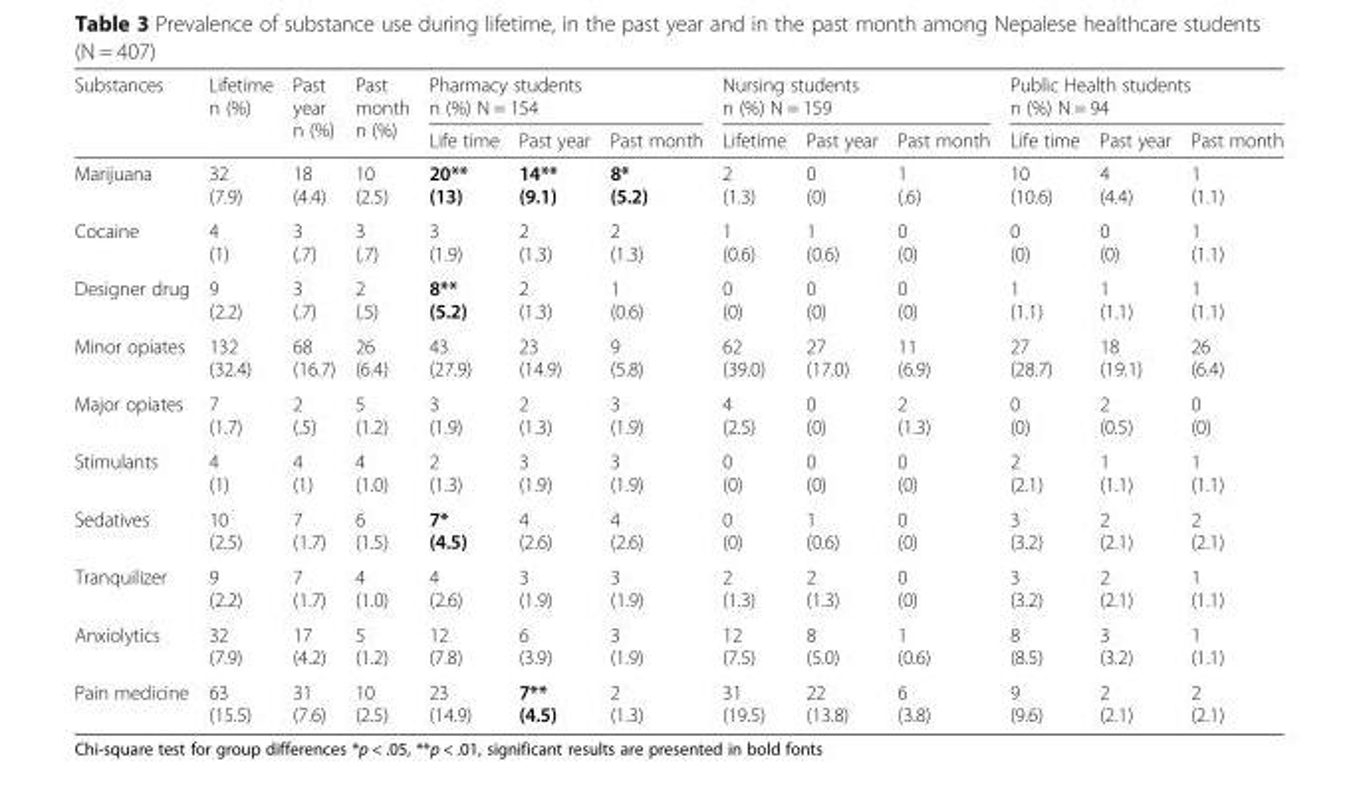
<table><thead><tr><td rowspan="2">Substances</td><td rowspan="2">Lifetime n (%)</td><td rowspan="2">Past year n (%)</td><td rowspan="2">Past month n (%)</td><td colspan="3">Pharmacy students n (%) N = 154</td><td colspan="3">Nursing students n (%) N = 159</td><td colspan="3">Public Health students n (%) N = 94</td></tr><tr><td>Life time</td><td>Past year</td><td>Past month</td><td>Lifetime</td><td>Past year</td><td>Past month</td><td>Life time</td><td>Past year</td><td>Past month</td></tr></thead><tbody><tr><td>Marijuana</td><td>32 (7.9)</td><td>18 (4.4)</td><td>10 (2.5)</td><td>20** (13)</td><td>14** (9.1)</td><td>8* (5.2)</td><td>2 (1.3)</td><td>0 (0)</td><td>1 (.6)</td><td>10 (10.6)</td><td>4 (4.4)</td><td>1 (1.1)</td></tr><tr><td>Cocaine</td><td>4 (1)</td><td>3 (.7)</td><td>3 (.7)</td><td>3 (1.9)</td><td>2 (1.3)</td><td>2 (1.3)</td><td>1 (0.6)</td><td>1 (0.6)</td><td>0 (0)</td><td>0 (0)</td><td>0 (0)</td><td>1 (1.1)</td></tr><tr><td>Designer drug</td><td>9 (2.2)</td><td>3 (.7)</td><td>2 (.5)</td><td>8** (5.2)</td><td>2 (1.3)</td><td>1 (0.6)</td><td>0 (0)</td><td>0 (0)</td><td>0 (0)</td><td>1 (1.1)</td><td>1 (1.1)</td><td>1 (1.1)</td></tr><tr><td>Minor opiates</td><td>132 (32.4)</td><td>68 (16.7)</td><td>26 (6.4)</td><td>43 (27.9)</td><td>23 (14.9)</td><td>9 (5.8)</td><td>62 (39.0)</td><td>27 (17.0)</td><td>11 (6.9)</td><td>27 (28.7)</td><td>18 (19.1)</td><td>26 (6.4)</td></tr><tr><td>Major opiates</td><td>7 (1.7)</td><td>2 (.5)</td><td>5 (1.2)</td><td>3 (1.9)</td><td>2 (1.3)</td><td>3 (1.9)</td><td>4 (2.5)</td><td>0 (0)</td><td>2 (1.3)</td><td>0 (0)</td><td>2 (0.5)</td><td>0 (0)</td></tr><tr><td>Stimulants</td><td>4 (1)</td><td>4 (1)</td><td>4 (1.0)</td><td>2 (1.3)</td><td>3 (1.9)</td><td>3 (1.9)</td><td>0 (0)</td><td>0 (0)</td><td>0 (0)</td><td>2 (2.1)</td><td>1 (1.1)</td><td>1 (1.1)</td></tr><tr><td>Sedatives</td><td>10 (2.5)</td><td>7 (1.7)</td><td>6 (1.5)</td><td>7* (4.5)</td><td>4 (2.6)</td><td>4 (2.6)</td><td>0 (0)</td><td>1 (0.6)</td><td>0 (0)</td><td>3 (3.2)</td><td>2 (2.1)</td><td>2 (2.1)</td></tr><tr><td>Tranquilizer</td><td>9 (2.2)</td><td>7 (1.7)</td><td>4 (1.0)</td><td>4 (2.6)</td><td>3 (1.9)</td><td>3 (1.9)</td><td>2 (1.3)</td><td>2 (1.3)</td><td>0 (0)</td><td>3 (3.2)</td><td>2 (2.1)</td><td>1 (1.1)</td></tr><tr><td>Anxiolytics</td><td>32 (7.9)</td><td>17 (4.2)</td><td>5 (1.2)</td><td>12 (7.8)</td><td>6 (3.9)</td><td>3 (1.9)</td><td>12 (7.5)</td><td>8 (5.0)</td><td>1 (0.6)</td><td>8 (8.5)</td><td>3 (3.2)</td><td>1 (1.1)</td></tr><tr><td>Pain medicine</td><td>63 (15.5)</td><td>31 (7.6)</td><td>10 (2.5)</td><td>23 (14.9)</td><td>7** (4.5)</td><td>2 (1.3)</td><td>31 (19.5)</td><td>22 (13.8)</td><td>6 (3.8)</td><td>9 (9.6)</td><td>2 (2.1)</td><td>2 (2.1)</td></tr></tbody></table>